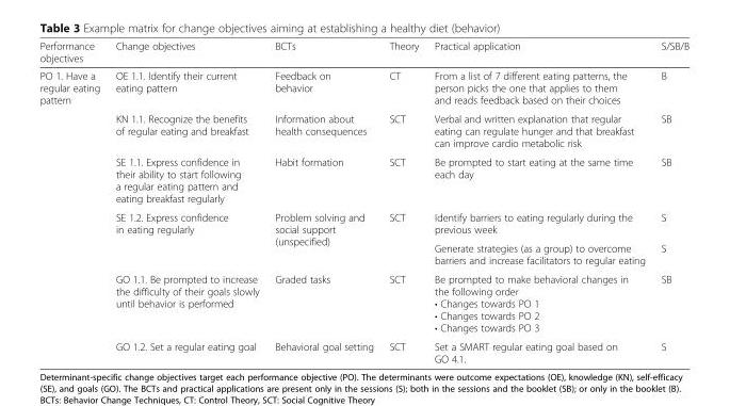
<table><thead><tr><td>Performance objectives</td><td>Change objectives</td><td>BCTs</td><td>Theory</td><td>Practical application</td><td>S/SB/B</td></tr></thead><tbody><tr><td rowspan="7">PO 1. Have a regular eating pattern</td><td>OE 1.1. Identify their current eating pattern</td><td>Feedback on behavior</td><td>CT</td><td>From a list of 7 different eating patterns, the person picks the one that applies to them and reads feedback based on their choices</td><td>B</td></tr><tr><td>KN 1.1. Recognize the benefits of regular eating and breakfast</td><td>Information about health consequences</td><td>SCT</td><td>Verbal and written explanation that regular eating can regulate hunger and that breakfast can improve cardio metabolic risk</td><td>SB</td></tr><tr><td>SE 1.1. Express confidence in their ability to start following a regular eating pattern and eating breakfast regularly</td><td>Habit formation</td><td>SCT</td><td>Be prompted to start eating at the same time each day</td><td>SB</td></tr><tr><td rowspan="2">SE 1.2. Express confidence in eating regularly</td><td rowspan="2">Problem solving and social support (unspecified)</td><td rowspan="2">SCT</td><td>Identify barriers to eating regularly during the previous week</td><td>S</td></tr><tr><td>Generate strategies (as a group) to overcome barriers and increase facilitators to regular eating</td><td>S</td></tr><tr><td>GO 1.1. Be prompted to increase the difficulty of their goals slowly until behavior is performed</td><td>Graded tasks</td><td>SCT</td><td>Be prompted to make behavioral changes in the following order • Changes towards PO 1 • Changes towards PO 2 • Changes towards PO 3</td><td>SB</td></tr><tr><td>GO 1.2. Set a regular eating goal</td><td>Behavioral goal setting</td><td>SCT</td><td>Set a SMART regular eating goal based on GO 4.1.</td><td>S</td></tr></tbody></table>